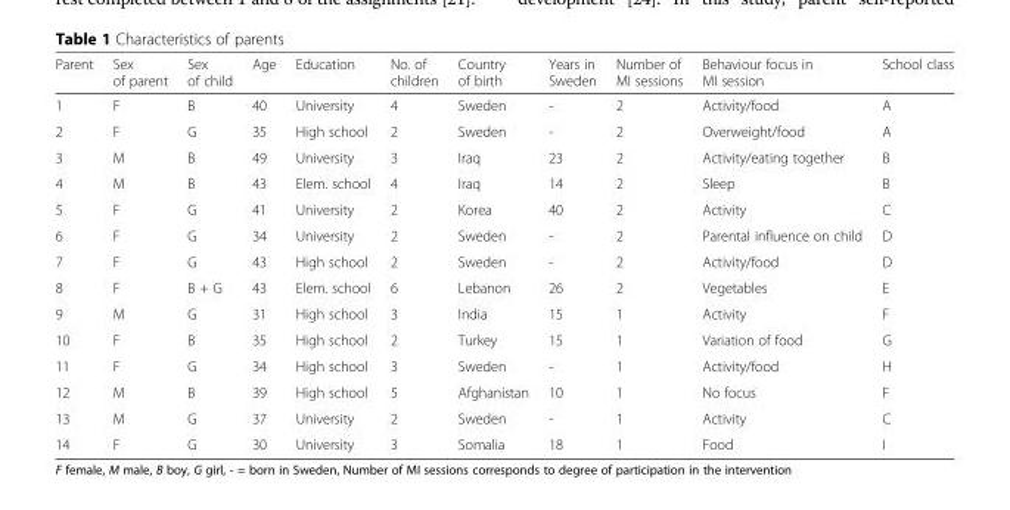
<table><thead><tr><td>Parent</td><td>Sex of parent</td><td>Sex of child</td><td>Age</td><td>Education</td><td>No. of children</td><td>Country of birth</td><td>Years in Sweden</td><td>Number of MI sessions</td><td>Behaviour focus in MI session</td><td>School class</td></tr></thead><tbody><tr><td>1</td><td>F</td><td>B</td><td>40</td><td>University</td><td>4</td><td>Sweden</td><td>-</td><td>2</td><td>Activity/food</td><td>A</td></tr><tr><td>2</td><td>F</td><td>G</td><td>35</td><td>High school</td><td>2</td><td>Sweden</td><td>-</td><td>2</td><td>Overweight/food</td><td>A</td></tr><tr><td>3</td><td>M</td><td>B</td><td>49</td><td>University</td><td>3</td><td>Iraq</td><td>23</td><td>2</td><td>Activity/eating together</td><td>B</td></tr><tr><td>4</td><td>M</td><td>B</td><td>43</td><td>Elem. school</td><td>4</td><td>Iraq</td><td>14</td><td>2</td><td>Sleep</td><td>B</td></tr><tr><td>5</td><td>F</td><td>G</td><td>41</td><td>University</td><td>2</td><td>Korea</td><td>40</td><td>2</td><td>Activity</td><td>C</td></tr><tr><td>6</td><td>F</td><td>G</td><td>34</td><td>University</td><td>2</td><td>Sweden</td><td>-</td><td>2</td><td>Parental influence on child</td><td>D</td></tr><tr><td>7</td><td>F</td><td>G</td><td>43</td><td>High school</td><td>2</td><td>Sweden</td><td>-</td><td>2</td><td>Activity/food</td><td>D</td></tr><tr><td>8</td><td>F</td><td>B + G</td><td>43</td><td>Elem. school</td><td>6</td><td>Lebanon</td><td>26</td><td>2</td><td>Vegetables</td><td>E</td></tr><tr><td>9</td><td>M</td><td>G</td><td>31</td><td>High school</td><td>3</td><td>India</td><td>15</td><td>1</td><td>Activity</td><td>F</td></tr><tr><td>10</td><td>F</td><td>B</td><td>35</td><td>High school</td><td>2</td><td>Turkey</td><td>15</td><td>1</td><td>Variation of food</td><td>G</td></tr><tr><td>11</td><td>F</td><td>G</td><td>34</td><td>High school</td><td>3</td><td>Sweden</td><td>-</td><td>1</td><td>Activity/food</td><td>H</td></tr><tr><td>12</td><td>M</td><td>B</td><td>39</td><td>High school</td><td>5</td><td>Afghanistan</td><td>10</td><td>1</td><td>No focus</td><td>F</td></tr><tr><td>13</td><td>M</td><td>G</td><td>37</td><td>University</td><td>2</td><td>Sweden</td><td>-</td><td>1</td><td>Activity</td><td>C</td></tr><tr><td>14</td><td>F</td><td>G</td><td>30</td><td>University</td><td>3</td><td>Somalia</td><td>18</td><td>1</td><td>Food</td><td>I</td></tr></tbody></table>